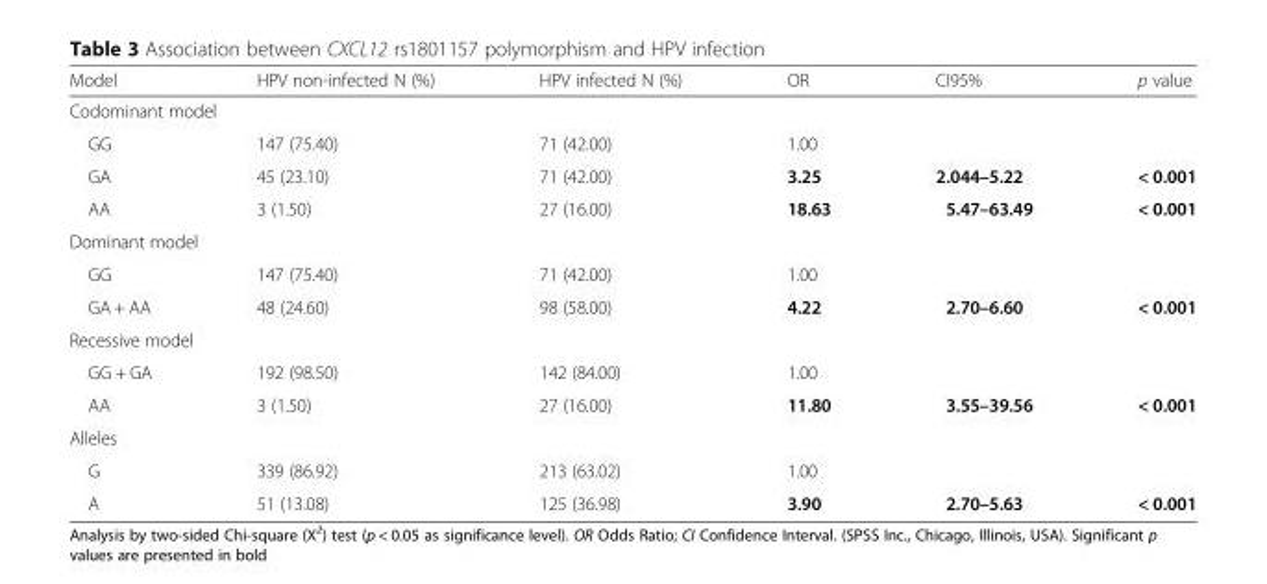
<table><thead><tr><td>Model</td><td>HPV non-infected N (%)</td><td>HPV infected N (%)</td><td>OR</td><td>CI95%</td><td>p value</td></tr></thead><tbody><tr><td colspan="6">Codominant model</td></tr><tr><td>GG</td><td>147 (75.40)</td><td>71 (42.00)</td><td>1.00</td><td></td><td></td></tr><tr><td>GA</td><td>45 (23.10)</td><td>71 (42.00)</td><td>3.25</td><td>2.044–5.22</td><td>&lt; 0.001</td></tr><tr><td>AA</td><td>3 (1.50)</td><td>27 (16.00)</td><td>18.63</td><td>5.47–63.49</td><td>&lt; 0.001</td></tr><tr><td colspan="6">Dominant model</td></tr><tr><td>GG</td><td>147 (75.40)</td><td>71 (42.00)</td><td>1.00</td><td></td><td></td></tr><tr><td>GA + AA</td><td>48 (24.60)</td><td>98 (58.00)</td><td>4.22</td><td>2.70–6.60</td><td>&lt; 0.001</td></tr><tr><td colspan="6">Recessive model</td></tr><tr><td>GG + GA</td><td>192 (98.50)</td><td>142 (84.00)</td><td>1.00</td><td></td><td></td></tr><tr><td>AA</td><td>3 (1.50)</td><td>27 (16.00)</td><td>11.80</td><td>3.55–39.56</td><td>&lt; 0.001</td></tr><tr><td colspan="6">Alleles</td></tr><tr><td>G</td><td>339 (86.92)</td><td>213 (63.02)</td><td>1.00</td><td></td><td></td></tr><tr><td>A</td><td>51 (13.08)</td><td>125 (36.98)</td><td>3.90</td><td>2.70–5.63</td><td>&lt; 0.001</td></tr></tbody></table>